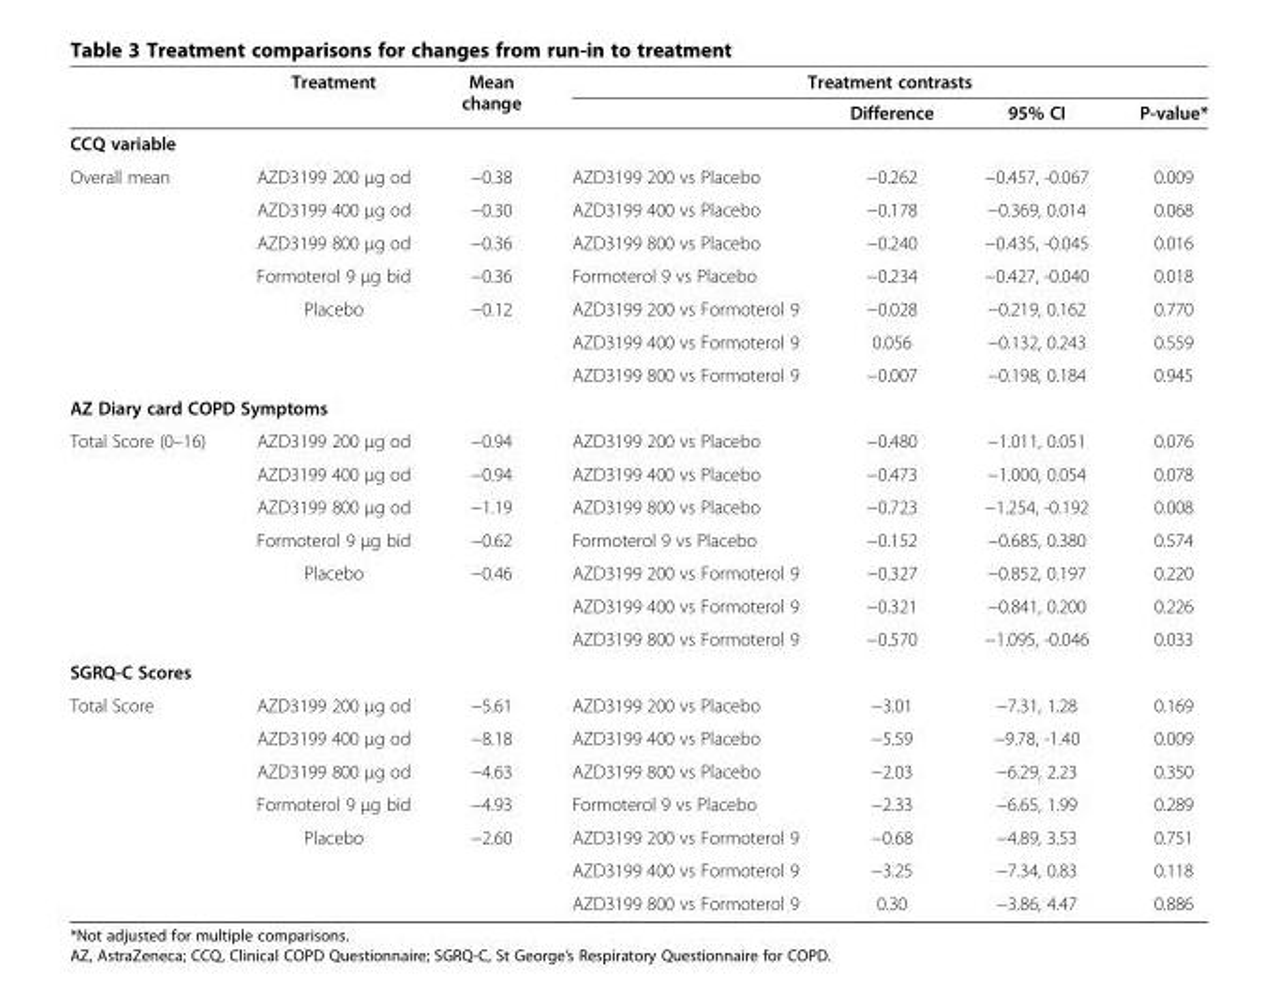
<table><thead><tr><td rowspan="2"></td><td rowspan="2">Treatment</td><td rowspan="2">Mean change</td><td colspan="4">Treatment contrasts</td></tr><tr><td></td><td>Difference</td><td>95% CI</td><td>P-value*</td></tr></thead><tbody><tr><td colspan="7">CCQ variable</td></tr><tr><td rowspan="7">Overall mean</td><td>AZD3199 200 μg od</td><td>−0.38</td><td>AZD3199 200 vs Placebo</td><td>−0.262</td><td>−0.457, -0.067</td><td>0.009</td></tr><tr><td>AZD3199 400 μg od</td><td>−0.30</td><td>AZD3199 400 vs Placebo</td><td>−0.178</td><td>−0.369, 0.014</td><td>0.068</td></tr><tr><td>AZD3199 800 μg od</td><td>−0.36</td><td>AZD3199 800 vs Placebo</td><td>−0.240</td><td>−0.435, -0.045</td><td>0.016</td></tr><tr><td>Formoterol 9 μg bid</td><td>−0.36</td><td>Formoterol 9 vs Placebo</td><td>−0.234</td><td>−0.427, -0.040</td><td>0.018</td></tr><tr><td rowspan="3">Placebo</td><td rowspan="3">−0.12</td><td>AZD3199 200 vs Formoterol 9</td><td>−0.028</td><td>−0.219, 0.162</td><td>0.770</td></tr><tr><td>AZD3199 400 vs Formoterol 9</td><td>0.056</td><td>−0.132, 0.243</td><td>0.559</td></tr><tr><td>AZD3199 800 vs Formoterol 9</td><td>−0.007</td><td>−0.198, 0.184</td><td>0.945</td></tr><tr><td colspan="7">AZ Diary card COPD Symptoms</td></tr><tr><td rowspan="7">Total Score (0–16)</td><td>AZD3199 200 μg od</td><td>−0.94</td><td>AZD3199 200 vs Placebo</td><td>−0.480</td><td>−1.011, 0.051</td><td>0.076</td></tr><tr><td>AZD3199 400 μg od</td><td>−0.94</td><td>AZD3199 400 vs Placebo</td><td>−0.473</td><td>−1.000, 0.054</td><td>0.078</td></tr><tr><td>AZD3199 800 μg od</td><td>−1.19</td><td>AZD3199 800 vs Placebo</td><td>−0.723</td><td>−1.254, -0.192</td><td>0.008</td></tr><tr><td>Formoterol 9 μg bid</td><td>−0.62</td><td>Formoterol 9 vs Placebo</td><td>−0.152</td><td>−0.685, 0.380</td><td>0.574</td></tr><tr><td rowspan="3">Placebo</td><td rowspan="3">−0.46</td><td>AZD3199 200 vs Formoterol 9</td><td>−0.327</td><td>−0.852, 0.197</td><td>0.220</td></tr><tr><td>AZD3199 400 vs Formoterol 9</td><td>−0.321</td><td>−0.841, 0.200</td><td>0.226</td></tr><tr><td>AZD3199 800 vs Formoterol 9</td><td>−0.570</td><td>−1.095, -0.046</td><td>0.033</td></tr><tr><td colspan="7">SGRQ-C Scores</td></tr><tr><td rowspan="7">Total Score</td><td>AZD3199 200 μg od</td><td>−5.61</td><td>AZD3199 200 vs Placebo</td><td>−3.01</td><td>−7.31, 1.28</td><td>0.169</td></tr><tr><td>AZD3199 400 μg od</td><td>−8.18</td><td>AZD3199 400 vs Placebo</td><td>−5.59</td><td>−9.78, -1.40</td><td>0.009</td></tr><tr><td>AZD3199 800 μg od</td><td>−4.63</td><td>AZD3199 800 vs Placebo</td><td>−2.03</td><td>−6.29, 2.23</td><td>0.350</td></tr><tr><td>Formoterol 9 μg bid</td><td>−4.93</td><td>Formoterol 9 vs Placebo</td><td>−2.33</td><td>−6.65, 1.99</td><td>0.289</td></tr><tr><td rowspan="2">Placebo</td><td rowspan="2">−2.60</td><td>AZD3199 200 vs Formoterol 9</td><td>−0.68</td><td>−4.89, 3.53</td><td>0.751</td></tr><tr><td>AZD3199 400 vs Formoterol 9</td><td>−3.25</td><td>−7.34, 0.83</td><td>0.118</td></tr><tr><td></td><td></td><td>AZD3199 800 vs Formoterol 9</td><td>0.30</td><td>−3.86, 4.47</td><td>0.886</td></tr></tbody></table>